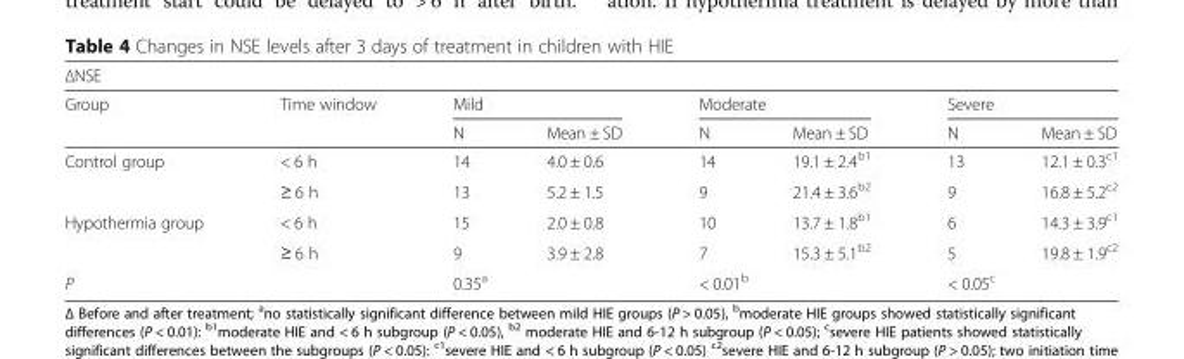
<table><thead><tr><td colspan="8">ΔNSE</td></tr><tr><td rowspan="2">Group</td><td rowspan="2">Time window</td><td colspan="2">Mild</td><td colspan="2">Moderate</td><td colspan="2">Severe</td></tr><tr><td>N</td><td>Mean ± SD</td><td>N</td><td>Mean ± SD</td><td>N</td><td>Mean ± SD</td></tr></thead><tbody><tr><td rowspan="2">Control group</td><td>&lt; 6 h</td><td>14</td><td>4.0 ± 0.6</td><td>14</td><td>19.1 ± 2.4<sup>b1</sup></td><td>13</td><td>12.1 ± 0.3<sup>c1</sup></td></tr><tr><td>≥ 6 h</td><td>13</td><td>5.2 ± 1.5</td><td>9</td><td>21.4 ± 3.6<sup>b2</sup></td><td>9</td><td>16.8 ± 5.2<sup>c2</sup></td></tr><tr><td rowspan="2">Hypothermia group</td><td>&lt; 6 h</td><td>15</td><td>2.0 ± 0.8</td><td>10</td><td>13.7 ± 1.8<sup>b1</sup></td><td>6</td><td>14.3 ± 3.9<sup>c1</sup></td></tr><tr><td>≥ 6 h</td><td>9</td><td>3.9 ± 2.8</td><td>7</td><td>15.3 ± 5.1<sup>b2</sup></td><td>5</td><td>19.8 ± 1.9<sup>c2</sup></td></tr><tr><td colspan="2">P</td><td colspan="2">0.35<sup>a</sup></td><td colspan="2">&lt; 0.01<sup>b</sup></td><td colspan="2">&lt; 0.05<sup>c</sup></td></tr></tbody></table>